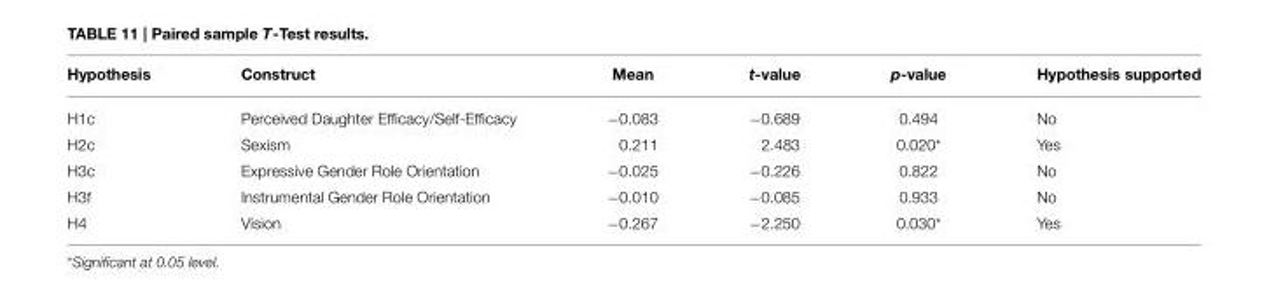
<table><thead><tr><td>Hypothesis</td><td>Construct</td><td>Mean</td><td>t-value</td><td>p-value</td><td>Hypothesis supported</td></tr></thead><tbody><tr><td>H1c</td><td>Perceived Daughter Efficacy/Self-Efficacy</td><td>−0.083</td><td>−0.689</td><td>0.494</td><td>No</td></tr><tr><td>H2c</td><td>Sexism</td><td>0.211</td><td>2.483</td><td>0.020*</td><td>Yes</td></tr><tr><td>H3c</td><td>Expressive Gender Role Orientation</td><td>−0.025</td><td>−0.226</td><td>0.822</td><td>No</td></tr><tr><td>H3f</td><td>Instrumental Gender Role Orientation</td><td>−0.010</td><td>−0.085</td><td>0.933</td><td>No</td></tr><tr><td>H4</td><td>Vision</td><td>−0.267</td><td>−2.250</td><td>0.030*</td><td>Yes</td></tr></tbody></table>